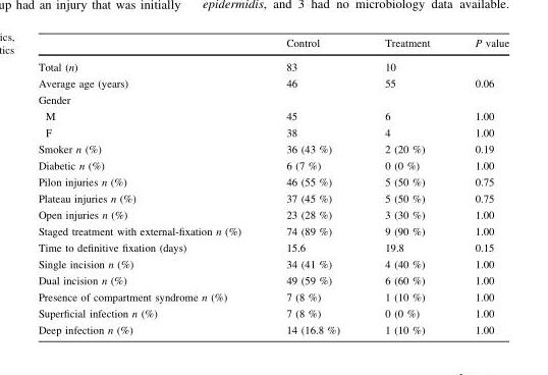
<table><thead><tr><td></td><td>Control</td><td>Treatment</td><td>P value</td></tr></thead><tbody><tr><td>Total (n)</td><td>83</td><td>10</td><td></td></tr><tr><td>Average age (years)</td><td>46</td><td>55</td><td>0.06</td></tr><tr><td colspan="4">Gender</td></tr><tr><td>M</td><td>45</td><td>6</td><td>1.00</td></tr><tr><td>F</td><td>38</td><td>4</td><td>1.00</td></tr><tr><td>Smoker n (%)</td><td>36 (43 %)</td><td>2 (20 %)</td><td>0.19</td></tr><tr><td>Diabetic n (%)</td><td>6 (7 %)</td><td>0 (0 %)</td><td>1.00</td></tr><tr><td>Pilon injuries n (%)</td><td>46 (55 %)</td><td>5 (50 %)</td><td>0.75</td></tr><tr><td>Plateau injuries n (%)</td><td>37 (45 %)</td><td>5 (50 %)</td><td>0.75</td></tr><tr><td>Open injuries n (%)</td><td>23 (28 %)</td><td>3 (30 %)</td><td>1.00</td></tr><tr><td>Staged treatment with external-fixation n (%)</td><td>74 (89 %)</td><td>9 (90 %)</td><td>1.00</td></tr><tr><td>Time to definitive fixation (days)</td><td>15.6</td><td>19.8</td><td>0.15</td></tr><tr><td>Single incision n (%)</td><td>34 (41 %)</td><td>4 (40 %)</td><td>1.00</td></tr><tr><td>Dual incision n (%)</td><td>49 (59 %)</td><td>6 (60 %)</td><td>1.00</td></tr><tr><td>Presence of compartment syndrome n (%)</td><td>7 (8 %)</td><td>1 (10 %)</td><td>1.00</td></tr><tr><td>Superficial infection n (%)</td><td>7 (8 %)</td><td>0 (0 %)</td><td>1.00</td></tr><tr><td>Deep infection n (%)</td><td>14 (16.8 %)</td><td>1 (10 %)</td><td>1.00</td></tr></tbody></table>